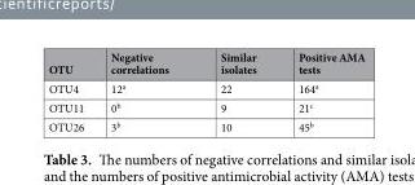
<table><thead><tr><td>OTU</td><td>Negative correlations</td><td>Similar isolates</td><td>Positive AMA tests</td></tr></thead><tbody><tr><td>OTU4</td><td>12<sup>a</sup></td><td>22</td><td>164<sup>a</sup></td></tr><tr><td>OTU11</td><td>0<sup>b</sup></td><td>9</td><td>21<sup>c</sup></td></tr><tr><td>OTU26</td><td>3<sup>b</sup></td><td>10</td><td>45<sup>b</sup></td></tr></tbody></table>